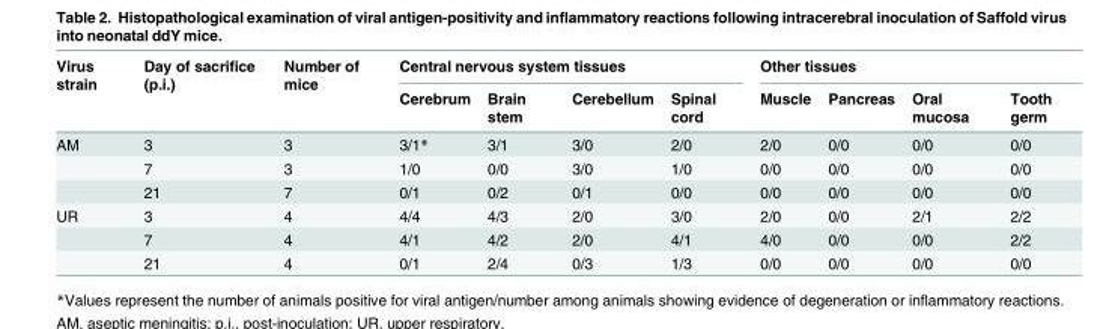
<table><thead><tr><td rowspan="2">Virus strain</td><td rowspan="2">Day of sacrifice (p.i.)</td><td rowspan="2">Number of mice</td><td colspan="4">Central nervous system tissues</td><td colspan="4">Other tissues</td></tr><tr><td>Cerebrum</td><td>Brain stem</td><td>Cerebellum</td><td>Spinal cord</td><td>Muscle</td><td>Pancreas</td><td>Oral mucosa</td><td>Tooth germ</td></tr></thead><tbody><tr><td rowspan="3">AM</td><td>3</td><td>3</td><td>3/1*</td><td>3/1</td><td>3/0</td><td>2/0</td><td>2/0</td><td>0/0</td><td>0/0</td><td>0/0</td></tr><tr><td>7</td><td>3</td><td>1/0</td><td>0/0</td><td>3/0</td><td>1/0</td><td>0/0</td><td>0/0</td><td>0/0</td><td>0/0</td></tr><tr><td>21</td><td>7</td><td>0/1</td><td>0/2</td><td>0/1</td><td>0/0</td><td>0/0</td><td>0/0</td><td>0/0</td><td>0/0</td></tr><tr><td rowspan="3">UR</td><td>3</td><td>4</td><td>4/4</td><td>4/3</td><td>2/0</td><td>3/0</td><td>2/0</td><td>0/0</td><td>2/1</td><td>2/2</td></tr><tr><td>7</td><td>4</td><td>4/1</td><td>4/2</td><td>2/0</td><td>4/1</td><td>4/0</td><td>0/0</td><td>0/0</td><td>2/2</td></tr><tr><td>21</td><td>4</td><td>0/1</td><td>2/4</td><td>0/3</td><td>1/3</td><td>0/0</td><td>0/0</td><td>0/0</td><td>0/0</td></tr></tbody></table>